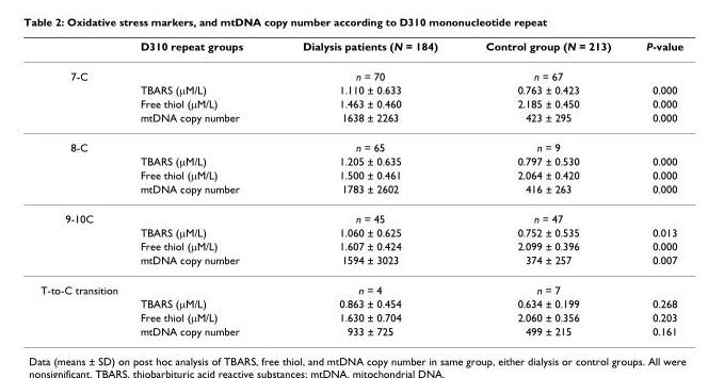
<table><thead><tr><td></td><td>D310 repeat groups</td><td>Dialysis patients (N = 184)</td><td>Control group (N = 213)</td><td>P-value</td></tr></thead><tbody><tr><td rowspan="4">7-C</td><td></td><td>n = 70</td><td>n = 67</td><td></td></tr><tr><td>TBARS (μM/L)</td><td>1.110 ± 0.633</td><td>0.763 ± 0.423</td><td>0.000</td></tr><tr><td>Free thiol (μM/L)</td><td>1.463 ± 0.460</td><td>2.185 ± 0.450</td><td>0.000</td></tr><tr><td>mtDNA copy number</td><td>1638 ± 2263</td><td>423 ± 295</td><td>0.000</td></tr><tr><td rowspan="4">8-C</td><td></td><td>n = 65</td><td>n = 9</td><td></td></tr><tr><td>TBARS (μM/L)</td><td>1.205 ± 0.635</td><td>0.797 ± 0.530</td><td>0.000</td></tr><tr><td>Free thiol (μM/L)</td><td>1.500 ± 0.461</td><td>2.064 ± 0.420</td><td>0.000</td></tr><tr><td>mtDNA copy number</td><td>1783 ± 2602</td><td>416 ± 263</td><td>0.000</td></tr><tr><td rowspan="4">9-10C</td><td></td><td>n = 45</td><td>n = 47</td><td></td></tr><tr><td>TBARS (μM/L)</td><td>1.060 ± 0.625</td><td>0.752 ± 0.535</td><td>0.013</td></tr><tr><td>Free thiol (μM/L)</td><td>1.607 ± 0.424</td><td>2.099 ± 0.396</td><td>0.000</td></tr><tr><td>mtDNA copy number</td><td>1594 ± 3023</td><td>374 ± 257</td><td>0.007</td></tr><tr><td rowspan="4">T-to-C transition</td><td></td><td>n = 4</td><td>n = 7</td><td></td></tr><tr><td>TBARS (μM/L)</td><td>0.863 ± 0.454</td><td>0.634 ± 0.199</td><td>0.268</td></tr><tr><td>Free thiol (μM/L)</td><td>1.630 ± 0.704</td><td>2.060 ± 0.356</td><td>0.203</td></tr><tr><td>mtDNA copy number</td><td>933 ± 725</td><td>499 ± 215</td><td>0.161</td></tr></tbody></table>